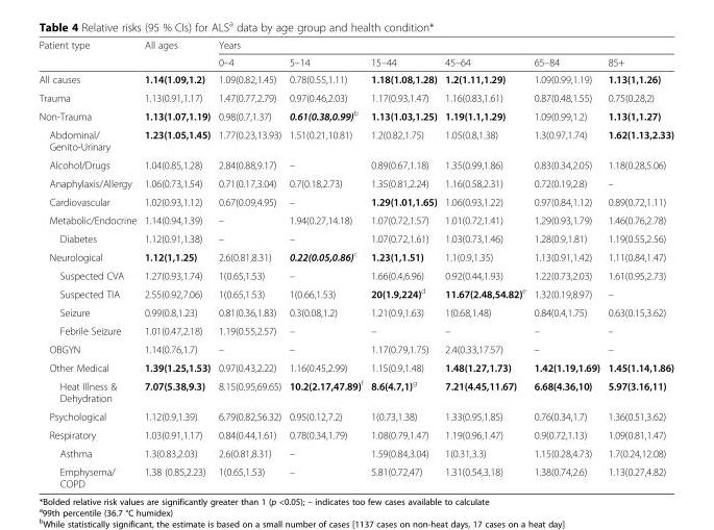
<table><thead><tr><td rowspan="2">Patient type</td><td rowspan="2">All ages</td><td colspan="6">Years</td></tr><tr><td>0–4</td><td>5–14</td><td>15–44</td><td>45–64</td><td>65–84</td><td>85+</td></tr></thead><tbody><tr><td>All causes</td><td>1.14(1.09,1.2)</td><td>1.09(0.82,1.45)</td><td>0.78(0.55,1.11)</td><td>1.18(1.08,1.28)</td><td>1.2(1.11,1.29)</td><td>1.09(0.99,1.19)</td><td>1.13(1,1.26)</td></tr><tr><td>Trauma</td><td>1.13(0.91,1.17)</td><td>1.47(0.77,2.79)</td><td>0.97(0.46,2.03)</td><td>1.17(0.93,1.47)</td><td>1.16(0.83,1.61)</td><td>0.87(0.48,1.55)</td><td>0.75(0.28,2)</td></tr><tr><td>Non-Trauma</td><td>1.13(1.07,1.19)</td><td>0.98(0.7,1.37)</td><td>0.61(0.38,0.99)<sup>b</sup></td><td>1.13(1.03,1.25)</td><td>1.19(1.1,1.29)</td><td>1.09(0.99,1.2)</td><td>1.13(1,1.27)</td></tr><tr><td>Abdominal/ Genito-Urinary</td><td>1.23(1.05,1.45)</td><td>1.77(0.23,13.93)</td><td>1.51(0.21,10.81)</td><td>1.2(0.82,1.75)</td><td>1.05(0.8,1.38)</td><td>1.3(0.97,1.74)</td><td>1.62(1.13,2.33)</td></tr><tr><td>Alcohol/Drugs</td><td>1.04(0.85,1.28)</td><td>2.84(0.88,9.17)</td><td>–</td><td>0.89(0.67,1.18)</td><td>1.35(0.99,1.86)</td><td>0.83(0.34,2.05)</td><td>1.18(0.28,5.06)</td></tr><tr><td>Anaphylaxis/Allergy</td><td>1.06(0.73,1.54)</td><td>0.71(0.17,3.04)</td><td>0.7(0.18,2.73)</td><td>1.35(0.81,2.24)</td><td>1.16(0.58,2.31)</td><td>0.72(0.19,2.8)</td><td>–</td></tr><tr><td>Cardiovascular</td><td>1.02(0.93,1.12)</td><td>0.67(0.09,4.95)</td><td>–</td><td>1.29(1.01,1.65)</td><td>1.06(0.93,1.22)</td><td>0.97(0.84,1.12)</td><td>0.89(0.72,1.11)</td></tr><tr><td>Metabolic/Endocrine</td><td>1.14(0.94,1.39)</td><td>–</td><td>1.94(0.27,14.18)</td><td>1.07(0.72,1.57)</td><td>1.01(0.72,1.41)</td><td>1.29(0.93,1.79)</td><td>1.46(0.76,2.78)</td></tr><tr><td>Diabetes</td><td>1.12(0.91,1.38)</td><td>–</td><td>–</td><td>1.07(0.72,1.61)</td><td>1.03(0.73,1.46)</td><td>1.28(0.9,1.81)</td><td>1.19(0.55,2.56)</td></tr><tr><td>Neurological</td><td>1.12(1,1.25)</td><td>2.6(0.81,8.31)</td><td>0.22(0.05,0.86)<sup>c</sup></td><td>1.23(1,1.51)</td><td>1.1(0.9,1.35)</td><td>1.13(0.91,1.42)</td><td>1.11(0.84,1.47)</td></tr><tr><td>Suspected CVA</td><td>1.27(0.93,1.74)</td><td>1(0.65,1.53)</td><td>–</td><td>1.66(0.4,6.96)</td><td>0.92(0.44,1.93)</td><td>1.22(0.73,2.03)</td><td>1.61(0.95,2.73)</td></tr><tr><td>Suspected TIA</td><td>2.55(0.92,7.06)</td><td>1(0.65,1.53)</td><td>1(0.66,1.53)</td><td>20(1.9,224)<sup>d</sup></td><td>11.67(2.48,54.82)<sup>e</sup></td><td>1.32(0.19,8.97)</td><td>–</td></tr><tr><td>Seizure</td><td>0.99(0.8,1.23)</td><td>0.81(0.36,1.83)</td><td>0.3(0.08,1.2)</td><td>1.21(0.9,1.63)</td><td>1(0.68,1.48)</td><td>0.84(0.4,1.75)</td><td>0.63(0.15,3.62)</td></tr><tr><td>Febrile Seizure</td><td>1.01(0.47,2.18)</td><td>1.19(0.55,2.57)</td><td>–</td><td>–</td><td>–</td><td>–</td><td>–</td></tr><tr><td>OBGYN</td><td>1.14(0.76,1.7)</td><td>–</td><td>–</td><td>1.17(0.79,1.75)</td><td>2.4(0.33,17.57)</td><td>–</td><td>–</td></tr><tr><td>Other Medical</td><td>1.39(1.25,1.53)</td><td>0.97(0.43,2.22)</td><td>1.16(0.45,2.99)</td><td>1.15(0.9,1.48)</td><td>1.48(1.27,1.73)</td><td>1.42(1.19,1.69)</td><td>1.45(1.14,1.86)</td></tr><tr><td>Heat Illness &amp; Dehydration</td><td>7.07(5.38,9.3)</td><td>8.15(0.95,69.65)</td><td>10.2(2.17,47.89)<sup>f</sup></td><td>8.6(4.7,1)<sup>g</sup></td><td>7.21(4.45,11.67)</td><td>6.68(4.36,10)</td><td>5.97(3.16,11)</td></tr><tr><td>Psychological</td><td>1.12(0.9,1.39)</td><td>6.79(0.82,56.32)</td><td>0.95(0.12,7.2)</td><td>1(0.73,1.38)</td><td>1.33(0.95,1.85)</td><td>0.76(0.34,1.7)</td><td>1.36(0.51,3.62)</td></tr><tr><td>Respiratory</td><td>1.03(0.91,1.17)</td><td>0.84(0.44,1.61)</td><td>0.78(0.34,1.79)</td><td>1.08(0.79,1.47)</td><td>1.19(0.96,1.47)</td><td>0.9(0.72,1.13)</td><td>1.09(0.81,1.47)</td></tr><tr><td>Asthma</td><td>1.3(0.83,2.03)</td><td>2.6(0.81,8.31)</td><td>–</td><td>1.59(0.84,3.04)</td><td>1(0.31,3.3)</td><td>1.15(0.28,4.73)</td><td>1.7(0.24,12.08)</td></tr><tr><td>Emphysema/ COPD</td><td>1.38 (0.85,2.23)</td><td>1(0.65,1.53)</td><td>–</td><td>5.81(0.72,47)</td><td>1.31(0.54,3.18)</td><td>1.38(0.74,2.6)</td><td>1.13(0.27,4.82)</td></tr></tbody></table>